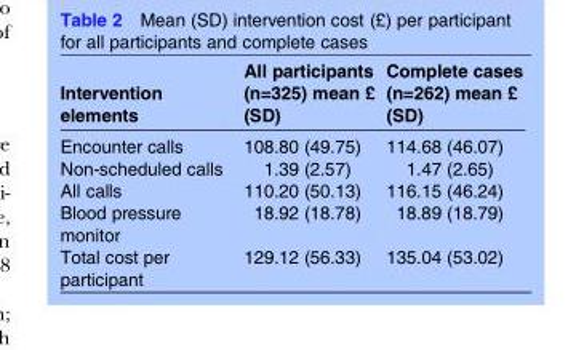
<table><thead><tr><td>Intervention elements</td><td>All participants (n=325) mean £ (SD)</td><td>Complete cases (n=262) mean £ (SD)</td></tr></thead><tbody><tr><td>Encounter calls</td><td>108.80 (49.75)</td><td>114.68 (46.07)</td></tr><tr><td>Non-scheduled calls</td><td>1.39 (2.57)</td><td>1.47 (2.65)</td></tr><tr><td>All calls</td><td>110.20 (50.13)</td><td>116.15 (46.24)</td></tr><tr><td>Blood pressure monitor</td><td>18.92 (18.78)</td><td>18.89 (18.79)</td></tr><tr><td>Total cost per participant</td><td>129.12 (56.33)</td><td>135.04 (53.02)</td></tr></tbody></table>